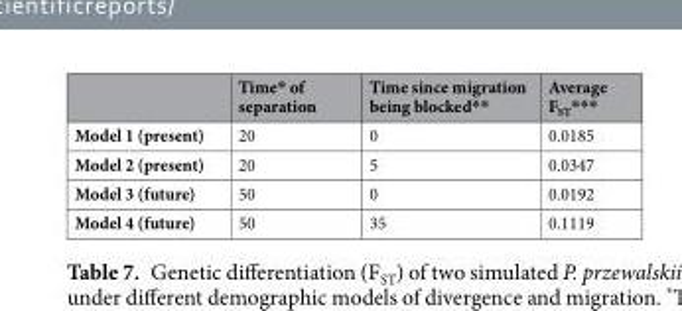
<table><thead><tr><td></td><td>Time* of separation</td><td>Time since migration being blocked**</td><td>Average F<sub>ST</sub>***</td></tr></thead><tbody><tr><td>Model 1 (present)</td><td>20</td><td>0</td><td>0.0185</td></tr><tr><td>Model 2 (present)</td><td>20</td><td>5</td><td>0.0347</td></tr><tr><td>Model 3 (future)</td><td>50</td><td>0</td><td>0.0192</td></tr><tr><td>Model 4 (future)</td><td>50</td><td>35</td><td>0.1119</td></tr></tbody></table>